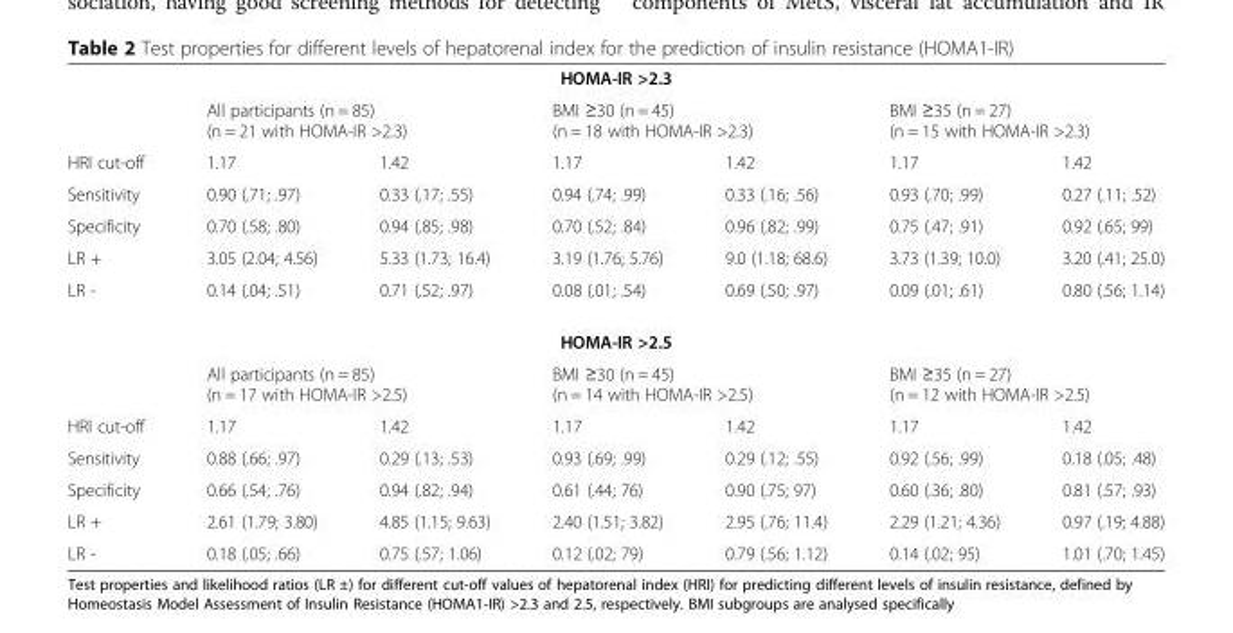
<table><tbody><tr><td colspan="7">HOMA-IR &gt;2.3</td></tr><tr><td></td><td colspan="2">All participants (n = 85) (n = 21 with HOMA-IR &gt;2.3)</td><td colspan="2">BMI ≥30 (n = 45) (n = 18 with HOMA-IR &gt;2.3)</td><td colspan="2">BMI ≥35 (n = 27) (n = 15 with HOMA-IR &gt;2.3)</td></tr><tr><td>HRI cut-off</td><td>1.17</td><td>1.42</td><td>1.17</td><td>1.42</td><td>1.17</td><td>1.42</td></tr><tr><td>Sensitivity</td><td>0.90 (.71; .97)</td><td>0.33 (.17; .55)</td><td>0.94 (.74; .99)</td><td>0.33 (.16; .56)</td><td>0.93 (.70; .99)</td><td>0.27 (.11; .52)</td></tr><tr><td>Specificity</td><td>0.70 (.58; .80)</td><td>0.94 (.85; .98)</td><td>0.70 (.52; .84)</td><td>0.96 (.82; .99)</td><td>0.75 (.47; .91)</td><td>0.92 (.65; 99)</td></tr><tr><td>LR +</td><td>3.05 (2.04; 4.56)</td><td>5.33 (1.73; 16.4)</td><td>3.19 (1.76; 5.76)</td><td>9.0 (1.18; 68.6)</td><td>3.73 (1.39; 10.0)</td><td>3.20 (.41; 25.0)</td></tr><tr><td>LR -</td><td>0.14 (.04; .51)</td><td>0.71 (.52; .97)</td><td>0.08 (.01; .54)</td><td>0.69 (.50; .97)</td><td>0.09 (.01; .61)</td><td>0.80 (.56; 1.14)</td></tr><tr><td colspan="7">HOMA-IR &gt;2.5</td></tr><tr><td></td><td colspan="2">All participants (n = 85) (n = 17 with HOMA-IR &gt;2.5)</td><td colspan="2">BMI ≥30 (n = 45) (n = 14 with HOMA-IR &gt;2.5)</td><td colspan="2">BMI ≥35 (n = 27) (n = 12 with HOMA-IR &gt;2.5)</td></tr><tr><td>HRI cut-off</td><td>1.17</td><td>1.42</td><td>1.17</td><td>1.42</td><td>1.17</td><td>1.42</td></tr><tr><td>Sensitivity</td><td>0.88 (.66; .97)</td><td>0.29 (.13; .53)</td><td>0.93 (.69; .99)</td><td>0.29 (.12; .55)</td><td>0.92 (.56; .99)</td><td>0.18 (.05; .48)</td></tr><tr><td>Specificity</td><td>0.66 (.54; .76)</td><td>0.94 (.82; .94)</td><td>0.61 (.44; 76)</td><td>0.90 (.75; 97)</td><td>0.60 (.36; .80)</td><td>0.81 (.57; .93)</td></tr><tr><td>LR +</td><td>2.61 (1.79; 3.80)</td><td>4.85 (1.15; 9.63)</td><td>2.40 (1.51; 3.82)</td><td>2.95 (.76; 11.4)</td><td>2.29 (1.21; 4.36)</td><td>0.97 (.19; 4.88)</td></tr><tr><td>LR -</td><td>0.18 (.05; .66)</td><td>0.75 (.57; 1.06)</td><td>0.12 (.02; 79)</td><td>0.79 (.56; 1.12)</td><td>0.14 (.02; 95)</td><td>1.01 (.70; 1.45)</td></tr></tbody></table>